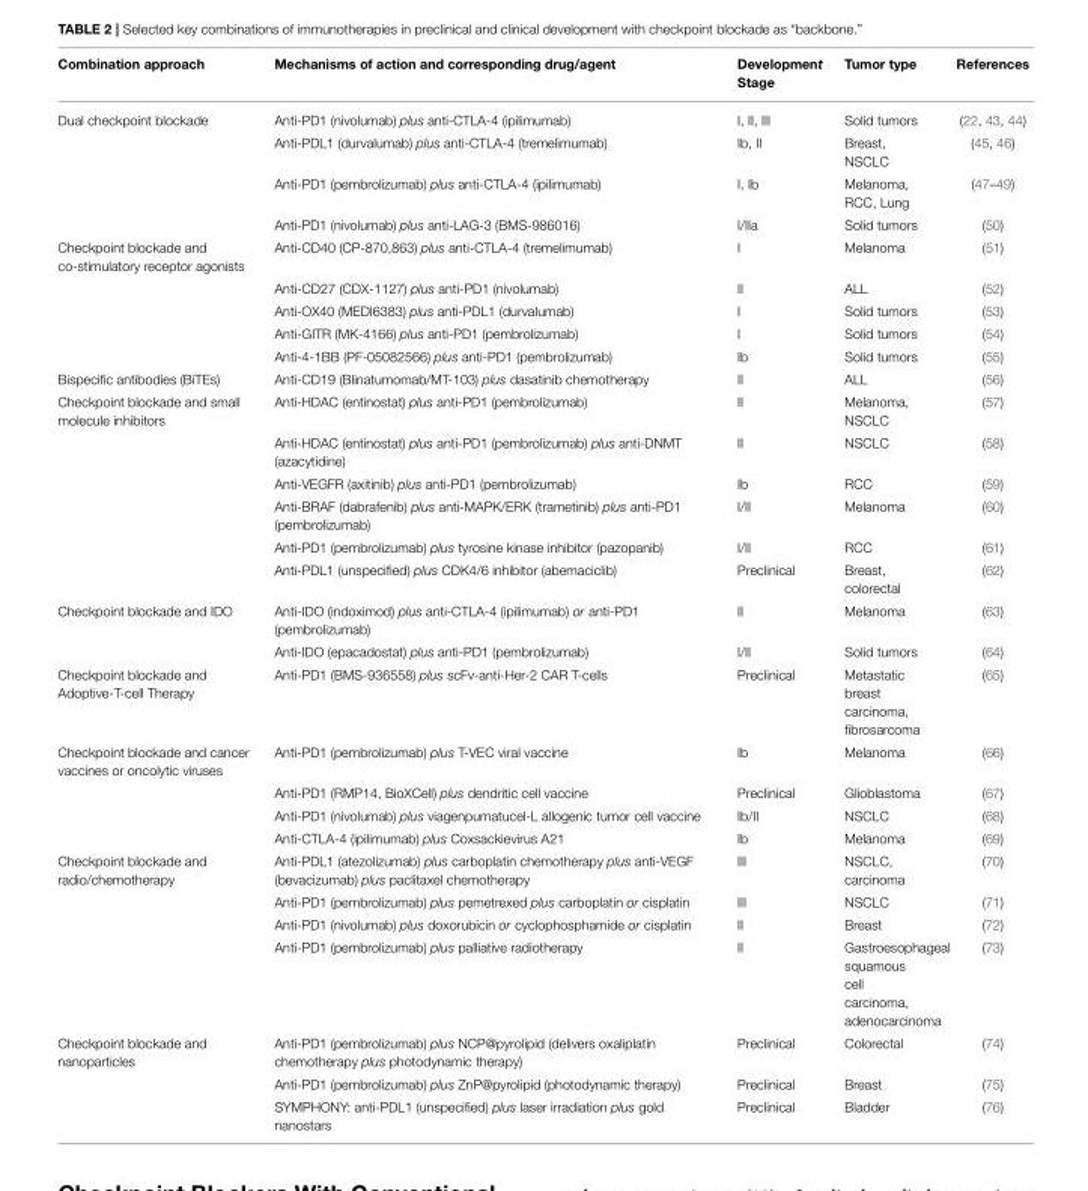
<table><thead><tr><td>Combination approach</td><td>Mechanisms of action and corresponding drug/agent</td><td>Development Stage</td><td>Tumor type</td><td>References</td></tr></thead><tbody><tr><td rowspan="4">Dual checkpoint blockade</td><td>Anti-PD1 (nivolumab) plus anti-CTLA-4 (ipilimumab)</td><td>I, II, III</td><td>Solid tumors</td><td>(22, 43, 44)</td></tr><tr><td>Anti-PDL1 (durvalumab) plus anti-CTLA-4 (tremelimumab)</td><td>Ib, II</td><td>Breast, NSCLC</td><td>(45, 46)</td></tr><tr><td>Anti-PD1 (pembrolizumab) plus anti-CTLA-4 (ipilimumab)</td><td>I, Ib</td><td>Melanoma, RCC, Lung</td><td>(47–49)</td></tr><tr><td>Anti-PD1 (nivolumab) plus anti-LAG-3 (BMS-986016)</td><td>I/IIa</td><td>Solid tumors</td><td>(50)</td></tr><tr><td rowspan="5">Checkpoint blockade and co-stimulatory receptor agonists</td><td>Anti-CD40 (CP-870,863) plus anti-CTLA-4 (tremelimumab)</td><td>I</td><td>Melanoma</td><td>(51)</td></tr><tr><td>Anti-CD27 (CDX-1127) plus anti-PD1 (nivolumab)</td><td>II</td><td>ALL</td><td>(52)</td></tr><tr><td>Anti-OX40 (MEDI6383) plus anti-PDL1 (durvalumab)</td><td>I</td><td>Solid tumors</td><td>(53)</td></tr><tr><td>Anti-GITR (MK-4166) plus anti-PD1 (pembrolizumab)</td><td>I</td><td>Solid tumors</td><td>(54)</td></tr><tr><td>Anti-4-1BB (PF-05082566) plus anti-PD1 (pembrolizumab)</td><td>Ib</td><td>Solid tumors</td><td>(55)</td></tr><tr><td>Bispecific antibodies (BiTEs)</td><td>Anti-CD19 (Blinatumomab/MT-103) plus dasatinib chemotherapy</td><td>II</td><td>ALL</td><td>(56)</td></tr><tr><td rowspan="6">Checkpoint blockade and small molecule inhibitors</td><td>Anti-HDAC (entinostat) plus anti-PD1 (pembrolizumab)</td><td>II</td><td>Melanoma, NSCLC</td><td>(57)</td></tr><tr><td>Anti-HDAC (entinostat) plus anti-PD1 (pembrolizumab) plus anti-DNMT (azacytidine)</td><td>II</td><td>NSCLC</td><td>(58)</td></tr><tr><td>Anti-VEGFR (axitinib) plus anti-PD1 (pembrolizumab)</td><td>Ib</td><td>RCC</td><td>(59)</td></tr><tr><td>Anti-BRAF (dabrafenib) plus anti-MAPK/ERK (trametinib) plus anti-PD1 (pembrolizumab)</td><td>I/II</td><td>Melanoma</td><td>(60)</td></tr><tr><td>Anti-PD1 (pembrolizumab) plus tyrosine kinase inhibitor (pazopanib)</td><td>I/II</td><td>RCC</td><td>(61)</td></tr><tr><td>Anti-PDL1 (unspecified) plus CDK4/6 inhibitor (abemaciclib)</td><td>Preclinical</td><td>Breast, colorectal</td><td>(62)</td></tr><tr><td rowspan="2">Checkpoint blockade and IDO</td><td>Anti-IDO (indoximod) plus anti-CTLA-4 (ipilimumab) or anti-PD1 (pembrolizumab)</td><td>II</td><td>Melanoma</td><td>(63)</td></tr><tr><td>Anti-IDO (epacadostat) plus anti-PD1 (pembrolizumab)</td><td>I/II</td><td>Solid tumors</td><td>(64)</td></tr><tr><td>Checkpoint blockade and Adoptive-T-cell Therapy</td><td>Anti-PD1 (BMS-936558) plus scFv-anti-Her-2 CAR T-cells</td><td>Preclinical</td><td>Metastatic breast carcinoma, fibrosarcoma</td><td>(65)</td></tr><tr><td rowspan="4">Checkpoint blockade and cancer vaccines or oncolytic viruses</td><td>Anti-PD1 (pembrolizumab) plus T-VEC viral vaccine</td><td>Ib</td><td>Melanoma</td><td>(66)</td></tr><tr><td>Anti-PD1 (RMP14, BioXCell) plus dendritic cell vaccine</td><td>Preclinical</td><td>Glioblastoma</td><td>(67)</td></tr><tr><td>Anti-PD1 (nivolumab) plus viagenpumatucel-L allogenic tumor cell vaccine</td><td>Ib/II</td><td>NSCLC</td><td>(68)</td></tr><tr><td>Anti-CTLA-4 (ipilimumab) plus Coxsackievirus A21</td><td>Ib</td><td>Melanoma</td><td>(69)</td></tr><tr><td rowspan="4">Checkpoint blockade and radio/chemotherapy</td><td>Anti-PDL1 (atezolizumab) plus carboplatin chemotherapy plus anti-VEGF (bevacizumab) plus paclitaxel chemotherapy</td><td>III</td><td>NSCLC, carcinoma</td><td>(70)</td></tr><tr><td>Anti-PD1 (pembrolizumab) plus pemetrexed plus carboplatin or cisplatin</td><td>III</td><td>NSCLC</td><td>(71)</td></tr><tr><td>Anti-PD1 (nivolumab) plus doxorubicin or cyclophosphamide or cisplatin</td><td>II</td><td>Breast</td><td>(72)</td></tr><tr><td>Anti-PD1 (pembrolizumab) plus palliative radiotherapy</td><td>II</td><td>Gastroesophageal squamous cell carcinoma, adenocarcinoma</td><td>(73)</td></tr><tr><td rowspan="3">Checkpoint blockade and nanoparticles</td><td>Anti-PD1 (pembrolizumab) plus NCP@pyrolipid (delivers oxaliplatin chemotherapy plus photodynamic therapy)</td><td>Preclinical</td><td>Colorectal</td><td>(74)</td></tr><tr><td>Anti-PD1 (pembrolizumab) plus ZnP@pyrolipid (photodynamic therapy)</td><td>Preclinical</td><td>Breast</td><td>(75)</td></tr><tr><td>SYMPHONY: anti-PDL1 (unspecified) plus laser irradiation plus gold nanostars</td><td>Preclinical</td><td>Bladder</td><td>(76)</td></tr></tbody></table>